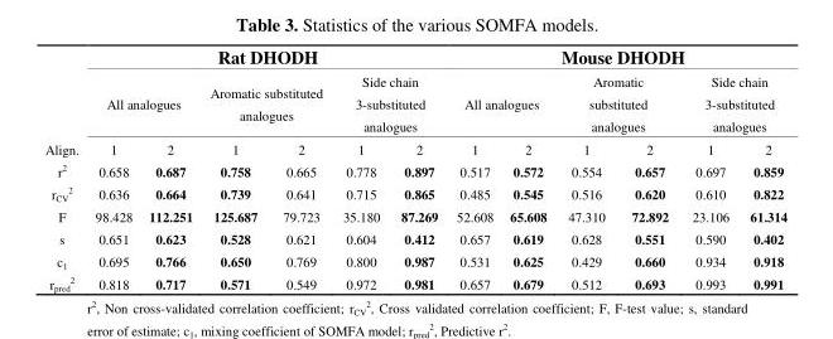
<table><thead><tr><td rowspan="3">Align.</td><td colspan="6">Rat DHODH</td><td colspan="6">Mouse DHODH</td></tr><tr><td colspan="2">All analogues</td><td colspan="2">Aromatic substituted analogues</td><td colspan="2">Side chain 3-substituted analogues</td><td colspan="2">All analogues</td><td colspan="2">Aromatic substituted analogues</td><td colspan="2">Side chain 3-substituted analogues</td></tr><tr><td>1</td><td>2</td><td>1</td><td>2</td><td>1</td><td>2</td><td>1</td><td>2</td><td>1</td><td>2</td><td>1</td><td>2</td></tr></thead><tbody><tr><td>r<sup>2</sup></td><td>0.658</td><td>0.687</td><td>0.758</td><td>0.665</td><td>0.778</td><td>0.897</td><td>0.517</td><td>0.572</td><td>0.554</td><td>0.657</td><td>0.697</td><td>0.859</td></tr><tr><td>r<sub>CV</sub> <sup>2</sup></td><td>0.636</td><td>0.664</td><td>0.739</td><td>0.641</td><td>0.715</td><td>0.865</td><td>0.485</td><td>0.545</td><td>0.516</td><td>0.620</td><td>0.610</td><td>0.822</td></tr><tr><td>F</td><td>98.428</td><td>112.251</td><td>125.687</td><td>79.723</td><td>35.180</td><td>87.269</td><td>52.608</td><td>65.608</td><td>47.310</td><td>72.892</td><td>23.106</td><td>61.314</td></tr><tr><td>s</td><td>0.651</td><td>0.623</td><td>0.528</td><td>0.621</td><td>0.604</td><td>0.412</td><td>0.657</td><td>0.619</td><td>0.628</td><td>0.551</td><td>0.590</td><td>0.402</td></tr><tr><td>c<sub>1</sub></td><td>0.695</td><td>0.766</td><td>0.650</td><td>0.769</td><td>0.800</td><td>0.987</td><td>0.531</td><td>0.625</td><td>0.429</td><td>0.660</td><td>0.934</td><td>0.918</td></tr><tr><td>r<sub>pred</sub> <sup>2</sup></td><td>0.818</td><td>0.717</td><td>0.571</td><td>0.549</td><td>0.972</td><td>0.981</td><td>0.657</td><td>0.679</td><td>0.512</td><td>0.693</td><td>0.993</td><td>0.991</td></tr></tbody></table>